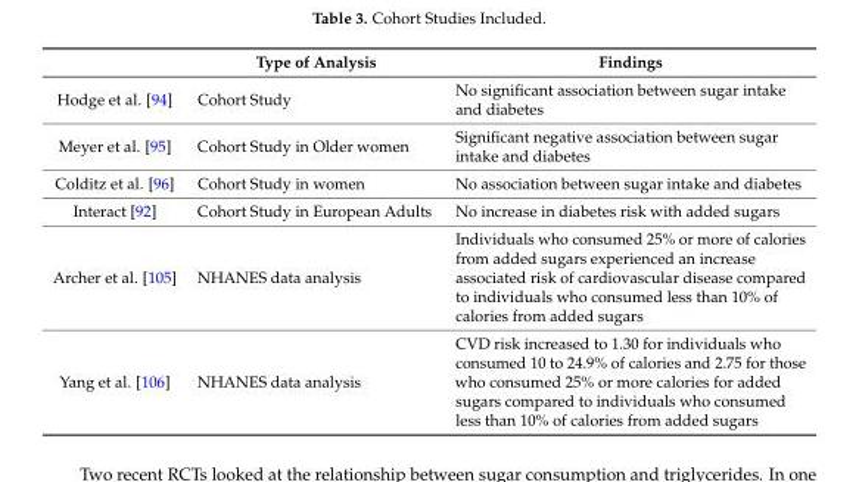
<table><thead><tr><td></td><td>Type of Analysis</td><td>Findings</td></tr></thead><tbody><tr><td>Hodge et al. [94]</td><td>Cohort Study</td><td>No significant association between sugar intake and diabetes</td></tr><tr><td>Meyer et al. [95]</td><td>Cohort Study in Older women</td><td>Significant negative association between sugar intake and diabetes</td></tr><tr><td>Colditz et al. [96]</td><td>Cohort Study in women</td><td>No association between sugar intake and diabetes</td></tr><tr><td>Interact [92]</td><td>Cohort Study in European Adults</td><td>No increase in diabetes risk with added sugars</td></tr><tr><td>Archer et al. [105]</td><td>NHANES data analysis</td><td>Individuals who consumed 25% or more of calories from added sugars experienced an increase associated risk of cardiovascular disease compared to individuals who consumed less than 10% of calories from added sugars</td></tr><tr><td>Yang et al. [106]</td><td>NHANES data analysis</td><td>CVD risk increased to 1.30 for individuals who consumed 10 to 24.9% of calories and 2.75 for those who consumed 25% or more calories for added sugars compared to individuals who consumed less than 10% of calories from added sugars</td></tr></tbody></table>